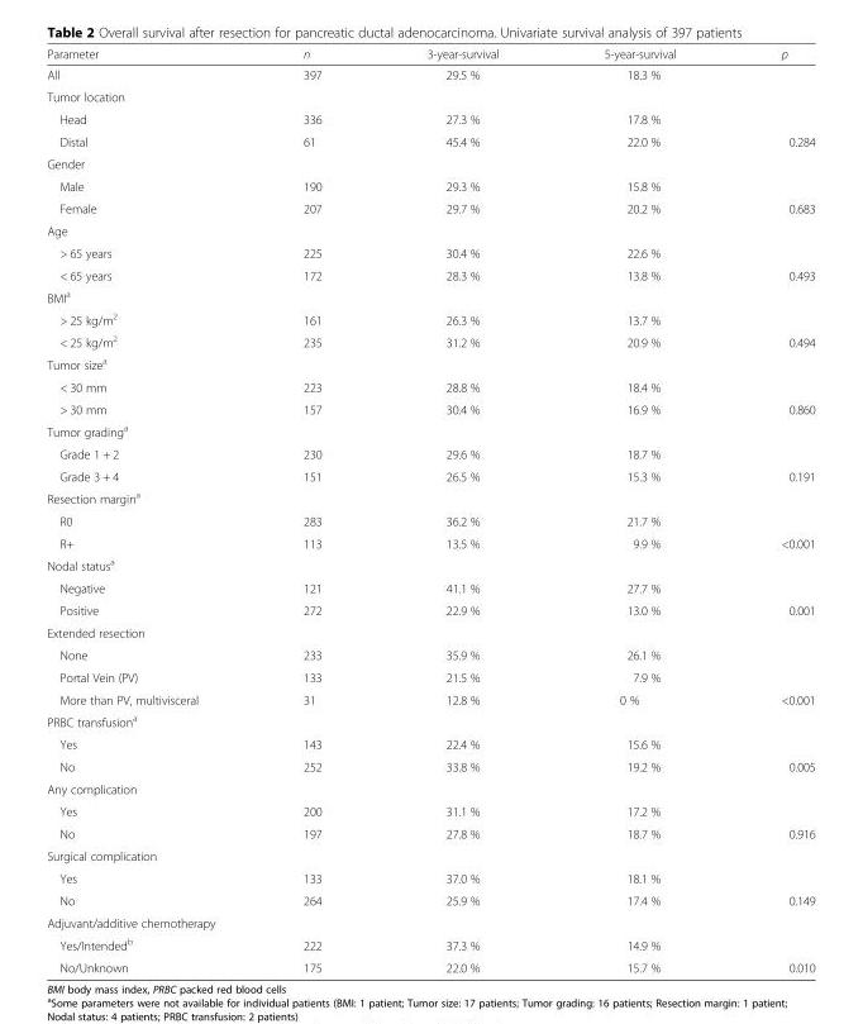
<table><thead><tr><td>Parameter</td><td>n</td><td>3-year-survival</td><td>5-year-survival</td><td>p</td></tr></thead><tbody><tr><td>All</td><td>397</td><td>29.5 %</td><td>18.3 %</td><td></td></tr><tr><td colspan="5">Tumor location</td></tr><tr><td>Head</td><td>336</td><td>27.3 %</td><td>17.8 %</td><td></td></tr><tr><td>Distal</td><td>61</td><td>45.4 %</td><td>22.0 %</td><td>0.284</td></tr><tr><td colspan="5">Gender</td></tr><tr><td>Male</td><td>190</td><td>29.3 %</td><td>15.8 %</td><td></td></tr><tr><td>Female</td><td>207</td><td>29.7 %</td><td>20.2 %</td><td>0.683</td></tr><tr><td colspan="5">Age</td></tr><tr><td>&gt; 65 years</td><td>225</td><td>30.4 %</td><td>22.6 %</td><td></td></tr><tr><td>&lt; 65 years</td><td>172</td><td>28.3 %</td><td>13.8 %</td><td>0.493</td></tr><tr><td colspan="5">BMI<sup>a</sup></td></tr><tr><td>&gt; 25 kg/m<sup>2</sup></td><td>161</td><td>26.3 %</td><td>13.7 %</td><td></td></tr><tr><td>&lt; 25 kg/m<sup>2</sup></td><td>235</td><td>31.2 %</td><td>20.9 %</td><td>0.494</td></tr><tr><td colspan="5">Tumor size<sup>a</sup></td></tr><tr><td>&lt; 30 mm</td><td>223</td><td>28.8 %</td><td>18.4 %</td><td></td></tr><tr><td>&gt; 30 mm</td><td>157</td><td>30.4 %</td><td>16.9 %</td><td>0.860</td></tr><tr><td colspan="5">Tumor grading<sup>a</sup></td></tr><tr><td>Grade 1 + 2</td><td>230</td><td>29.6 %</td><td>18.7 %</td><td></td></tr><tr><td>Grade 3 + 4</td><td>151</td><td>26.5 %</td><td>15.3 %</td><td>0.191</td></tr><tr><td colspan="5">Resection margin<sup>a</sup></td></tr><tr><td>R0</td><td>283</td><td>36.2 %</td><td>21.7 %</td><td></td></tr><tr><td>R+</td><td>113</td><td>13.5 %</td><td>9.9 %</td><td>&lt;0.001</td></tr><tr><td colspan="5">Nodal status<sup>a</sup></td></tr><tr><td>Negative</td><td>121</td><td>41.1 %</td><td>27.7 %</td><td></td></tr><tr><td>Positive</td><td>272</td><td>22.9 %</td><td>13.0 %</td><td>0.001</td></tr><tr><td colspan="5">Extended resection</td></tr><tr><td>None</td><td>233</td><td>35.9 %</td><td>26.1 %</td><td></td></tr><tr><td>Portal Vein (PV)</td><td>133</td><td>21.5 %</td><td>7.9 %</td><td></td></tr><tr><td>More than PV, multivisceral</td><td>31</td><td>12.8 %</td><td>0 %</td><td>&lt;0.001</td></tr><tr><td colspan="5">PRBC transfusion<sup>a</sup></td></tr><tr><td>Yes</td><td>143</td><td>22.4 %</td><td>15.6 %</td><td></td></tr><tr><td>No</td><td>252</td><td>33.8 %</td><td>19.2 %</td><td>0.005</td></tr><tr><td colspan="5">Any complication</td></tr><tr><td>Yes</td><td>200</td><td>31.1 %</td><td>17.2 %</td><td></td></tr><tr><td>No</td><td>197</td><td>27.8 %</td><td>18.7 %</td><td>0.916</td></tr><tr><td colspan="5">Surgical complication</td></tr><tr><td>Yes</td><td>133</td><td>37.0 %</td><td>18.1 %</td><td></td></tr><tr><td>No</td><td>264</td><td>25.9 %</td><td>17.4 %</td><td>0.149</td></tr><tr><td colspan="5">Adjuvant/additive chemotherapy</td></tr><tr><td>Yes/Intended<sup>b</sup></td><td>222</td><td>37.3 %</td><td>14.9 %</td><td></td></tr><tr><td>No/Unknown</td><td>175</td><td>22.0 %</td><td>15.7 %</td><td>0.010</td></tr></tbody></table>